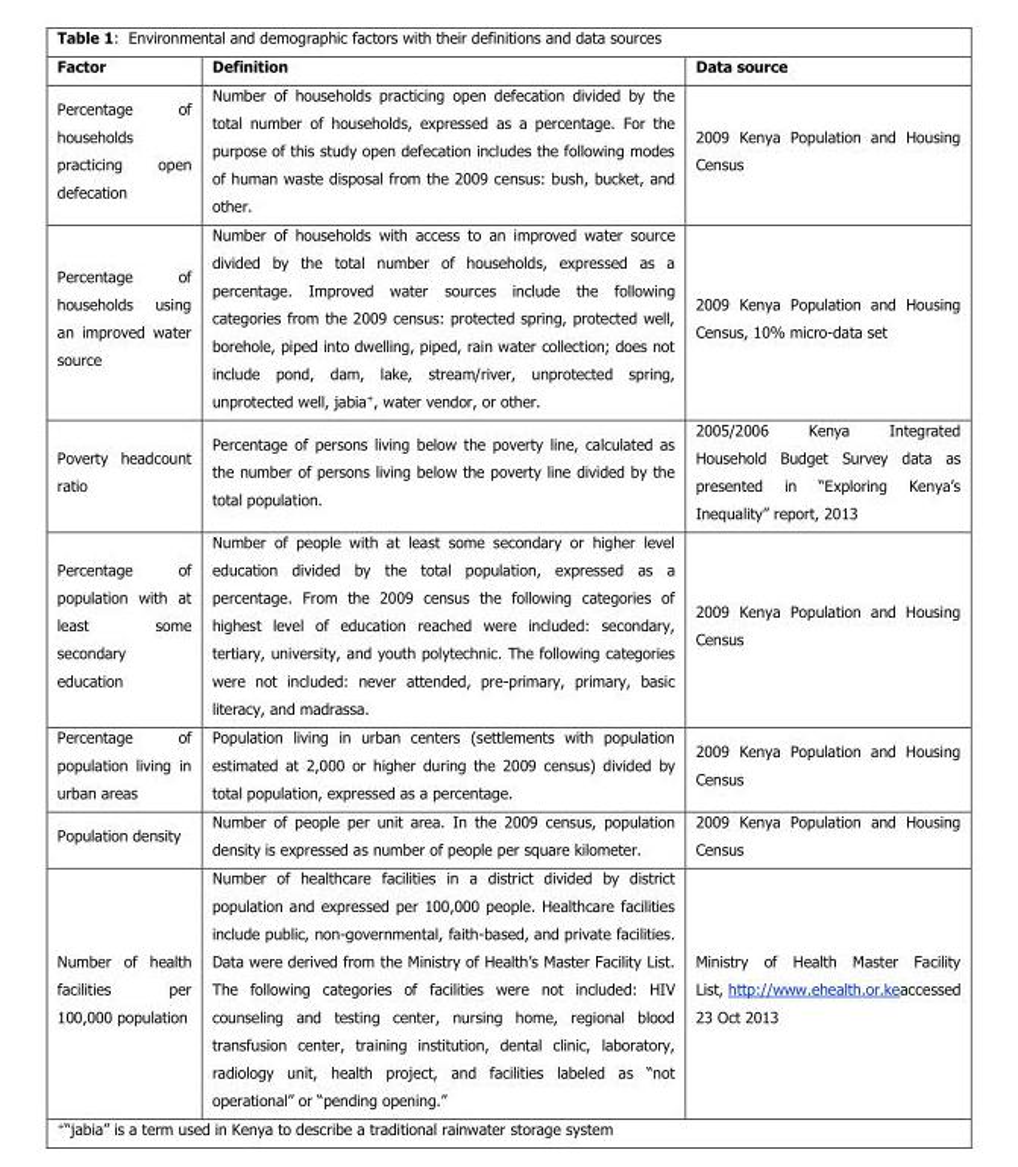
<table><thead><tr><td>Factor</td><td>Definition</td><td>Data source</td></tr></thead><tbody><tr><td>Percentage of households practicing open defecation</td><td>Number of households practicing open defecation divided by the total number of households, expressed as a percentage. For the purpose of this study open defecation includes the following modes of human waste disposal from the 2009 census: bush, bucket, and other.</td><td>2009 Kenya Population and Housing Census</td></tr><tr><td>Percentage of households using an improved water source</td><td>Number of households with access to an improved water source divided by the total number of households, expressed as a percentage. Improved water sources include the following categories from the 2009 census: protected spring, protected well, borehole, piped into dwelling, piped, rain water collection; does not include pond, dam, lake, stream/river, unprotected spring, unprotected well, jabia<sup>+</sup>, water vendor, or other.</td><td>2009 Kenya Population and Housing Census, 10% micro-data set</td></tr><tr><td>Poverty headcount ratio</td><td>Percentage of persons living below the poverty line, calculated as the number of persons living below the poverty line divided by the total population.</td><td>2005/2006 Kenya Integrated Household Budget Survey data as presented in “Exploring Kenya’s Inequality” report, 2013</td></tr><tr><td>Percentage of population with at least some secondary education</td><td>Number of people with at least some secondary or higher level education divided by the total population, expressed as a percentage. From the 2009 census the following categories of highest level of education reached were included: secondary, tertiary, university, and youth polytechnic. The following categories were not included: never attended, pre-primary, primary, basic literacy, and madrassa.</td><td>2009 Kenya Population and Housing Census</td></tr><tr><td>Percentage of population living in urban areas</td><td>Population living in urban centers (settlements with population estimated at 2,000 or higher during the 2009 census) divided by total population, expressed as a percentage.</td><td>2009 Kenya Population and Housing Census</td></tr><tr><td>Population density</td><td>Number of people per unit area. In the 2009 census, population density is expressed as number of people per square kilometer.</td><td>2009 Kenya Population and Housing Census</td></tr><tr><td>Number of health facilities per 100,000 population</td><td>Number of healthcare facilities in a district divided by district population and expressed per 100,000 people. Healthcare facilities include public, non-governmental, faith-based, and private facilities. Data were derived from the Ministry of Health’s Master Facility List. The following categories of facilities were not included: HIV counseling and testing center, nursing home, regional blood transfusion center, training institution, dental clinic, laboratory, radiology unit, health project, and facilities labeled as “not operational” or “pending opening.”</td><td>Ministry of Health Master Facility List, http://www.ehealth.or.keaccessed 23 Oct 2013</td></tr></tbody></table>